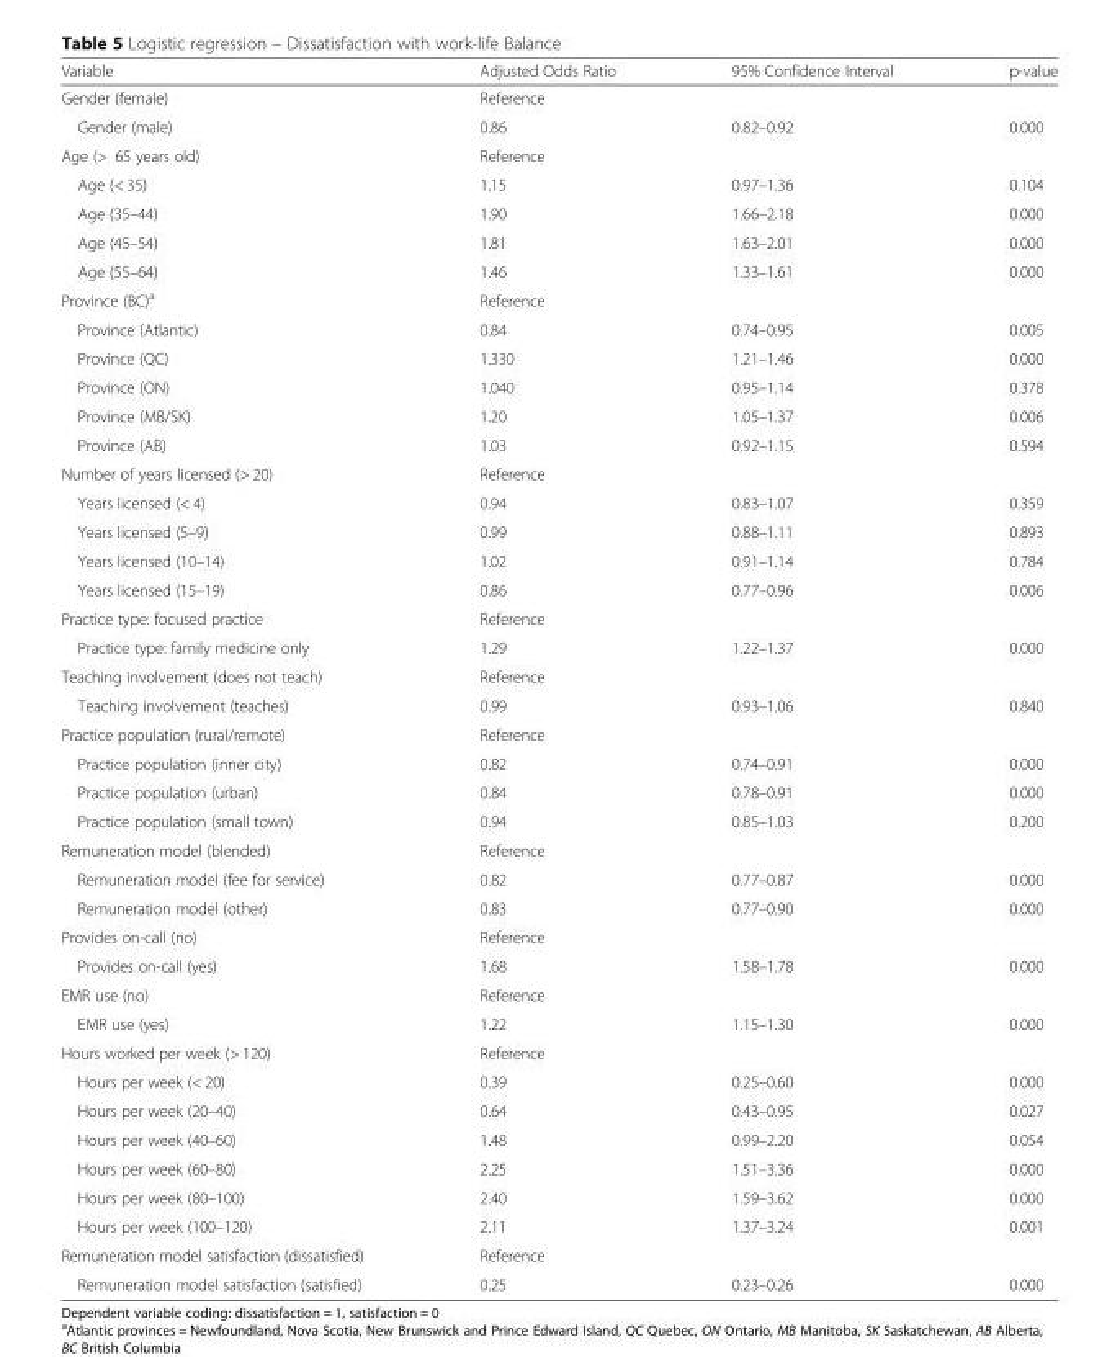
<table><thead><tr><td>Variable</td><td>Adjusted Odds Ratio</td><td>95% Confidence Interval</td><td>p-value</td></tr></thead><tbody><tr><td>Gender (female)</td><td>Reference</td><td></td><td></td></tr><tr><td>Gender (male)</td><td>0.86</td><td>0.82–0.92</td><td>0.000</td></tr><tr><td>Age (&gt; 65 years old)</td><td>Reference</td><td></td><td></td></tr><tr><td>Age (&lt; 35)</td><td>1.15</td><td>0.97–1.36</td><td>0.104</td></tr><tr><td>Age (35–44)</td><td>1.90</td><td>1.66–2.18</td><td>0.000</td></tr><tr><td>Age (45–54)</td><td>1.81</td><td>1.63–2.01</td><td>0.000</td></tr><tr><td>Age (55–64)</td><td>1.46</td><td>1.33–1.61</td><td>0.000</td></tr><tr><td>Province (BC)<sup>a</sup></td><td>Reference</td><td></td><td></td></tr><tr><td>Province (Atlantic)</td><td>0.84</td><td>0.74–0.95</td><td>0.005</td></tr><tr><td>Province (QC)</td><td>1.330</td><td>1.21–1.46</td><td>0.000</td></tr><tr><td>Province (ON)</td><td>1.040</td><td>0.95–1.14</td><td>0.378</td></tr><tr><td>Province (MB/SK)</td><td>1.20</td><td>1.05–1.37</td><td>0.006</td></tr><tr><td>Province (AB)</td><td>1.03</td><td>0.92–1.15</td><td>0.594</td></tr><tr><td>Number of years licensed (&gt; 20)</td><td>Reference</td><td></td><td></td></tr><tr><td>Years licensed (&lt; 4)</td><td>0.94</td><td>0.83–1.07</td><td>0.359</td></tr><tr><td>Years licensed (5–9)</td><td>0.99</td><td>0.88–1.11</td><td>0.893</td></tr><tr><td>Years licensed (10–14)</td><td>1.02</td><td>0.91–1.14</td><td>0.784</td></tr><tr><td>Years licensed (15–19)</td><td>0.86</td><td>0.77–0.96</td><td>0.006</td></tr><tr><td>Practice type: focused practice</td><td>Reference</td><td></td><td></td></tr><tr><td>Practice type: family medicine only</td><td>1.29</td><td>1.22–1.37</td><td>0.000</td></tr><tr><td>Teaching involvement (does not teach)</td><td>Reference</td><td></td><td></td></tr><tr><td>Teaching involvement (teaches)</td><td>0.99</td><td>0.93–1.06</td><td>0.840</td></tr><tr><td>Practice population (rural/remote)</td><td>Reference</td><td></td><td></td></tr><tr><td>Practice population (inner city)</td><td>0.82</td><td>0.74–0.91</td><td>0.000</td></tr><tr><td>Practice population (urban)</td><td>0.84</td><td>0.78–0.91</td><td>0.000</td></tr><tr><td>Practice population (small town)</td><td>0.94</td><td>0.85–1.03</td><td>0.200</td></tr><tr><td>Remuneration model (blended)</td><td>Reference</td><td></td><td></td></tr><tr><td>Remuneration model (fee for service)</td><td>0.82</td><td>0.77–0.87</td><td>0.000</td></tr><tr><td>Remuneration model (other)</td><td>0.83</td><td>0.77–0.90</td><td>0.000</td></tr><tr><td>Provides on-call (no)</td><td>Reference</td><td></td><td></td></tr><tr><td>Provides on-call (yes)</td><td>1.68</td><td>1.58–1.78</td><td>0.000</td></tr><tr><td>EMR use (no)</td><td>Reference</td><td></td><td></td></tr><tr><td>EMR use (yes)</td><td>1.22</td><td>1.15–1.30</td><td>0.000</td></tr><tr><td>Hours worked per week (&gt; 120)</td><td>Reference</td><td></td><td></td></tr><tr><td>Hours per week (&lt; 20)</td><td>0.39</td><td>0.25–0.60</td><td>0.000</td></tr><tr><td>Hours per week (20–40)</td><td>0.64</td><td>0.43–0.95</td><td>0.027</td></tr><tr><td>Hours per week (40–60)</td><td>1.48</td><td>0.99–2.20</td><td>0.054</td></tr><tr><td>Hours per week (60–80)</td><td>2.25</td><td>1.51–3.36</td><td>0.000</td></tr><tr><td>Hours per week (80–100)</td><td>2.40</td><td>1.59–3.62</td><td>0.000</td></tr><tr><td>Hours per week (100–120)</td><td>2.11</td><td>1.37–3.24</td><td>0.001</td></tr><tr><td>Remuneration model satisfaction (dissatisfied)</td><td>Reference</td><td></td><td></td></tr><tr><td>Remuneration model satisfaction (satisfied)</td><td>0.25</td><td>0.23–0.26</td><td>0.000</td></tr></tbody></table>